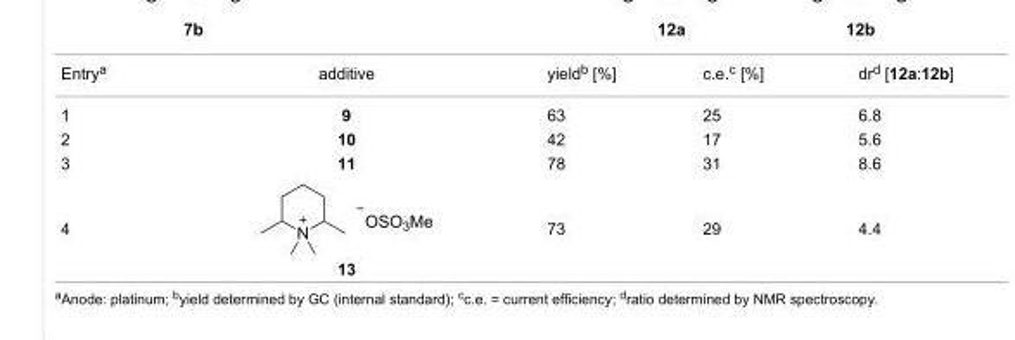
<table><tbody><tr><td>Entry<sup>a</sup></td><td>additive</td><td>yield<sup>b</sup> [%]</td><td>c.e.<sup>c</sup> [%]</td><td>dr<sup>d</sup> [12a:12b]</td></tr><tr><td>1</td><td>9</td><td>63</td><td>25</td><td>6.8</td></tr><tr><td>2</td><td>10</td><td>42</td><td>17</td><td>5.6</td></tr><tr><td>3</td><td>11</td><td>78</td><td>31</td><td>8.6</td></tr><tr><td>4</td><td>13</td><td>73</td><td>29</td><td>4.4</td></tr></tbody></table>